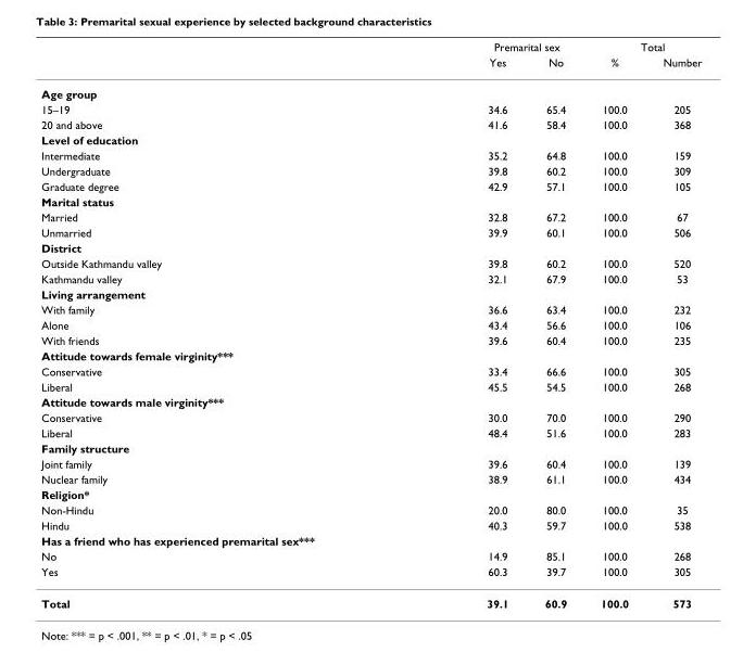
<table><thead><tr><td rowspan="2"></td><td colspan="2">Premarital sex</td><td colspan="2">Total</td></tr><tr><td>Yes</td><td>No</td><td>%</td><td>Number</td></tr></thead><tbody><tr><td colspan="5">Age group</td></tr><tr><td>15–19</td><td>34.6</td><td>65.4</td><td>100.0</td><td>205</td></tr><tr><td>20 and above</td><td>41.6</td><td>58.4</td><td>100.0</td><td>368</td></tr><tr><td colspan="5">Level of education</td></tr><tr><td>Intermediate</td><td>35.2</td><td>64.8</td><td>100.0</td><td>159</td></tr><tr><td>Undergraduate</td><td>39.8</td><td>60.2</td><td>100.0</td><td>309</td></tr><tr><td>Graduate degree</td><td>42.9</td><td>57.1</td><td>100.0</td><td>105</td></tr><tr><td colspan="5">Marital status</td></tr><tr><td>Married</td><td>32.8</td><td>67.2</td><td>100.0</td><td>67</td></tr><tr><td>Unmarried</td><td>39.9</td><td>60.1</td><td>100.0</td><td>506</td></tr><tr><td colspan="5">District</td></tr><tr><td>Outside Kathmandu valley</td><td>39.8</td><td>60.2</td><td>100.0</td><td>520</td></tr><tr><td>Kathmandu valley</td><td>32.1</td><td>67.9</td><td>100.0</td><td>53</td></tr><tr><td colspan="5">Living arrangement</td></tr><tr><td>With family</td><td>36.6</td><td>63.4</td><td>100.0</td><td>232</td></tr><tr><td>Alone</td><td>43.4</td><td>56.6</td><td>100.0</td><td>106</td></tr><tr><td>With friends</td><td>39.6</td><td>60.4</td><td>100.0</td><td>235</td></tr><tr><td colspan="5">Attitude towards female virginity***</td></tr><tr><td>Conservative</td><td>33.4</td><td>66.6</td><td>100.0</td><td>305</td></tr><tr><td>Liberal</td><td>45.5</td><td>54.5</td><td>100.0</td><td>268</td></tr><tr><td colspan="5">Attitude towards male virginity***</td></tr><tr><td>Conservative</td><td>30.0</td><td>70.0</td><td>100.0</td><td>290</td></tr><tr><td>Liberal</td><td>48.4</td><td>51.6</td><td>100.0</td><td>283</td></tr><tr><td colspan="5">Family structure</td></tr><tr><td>Joint family</td><td>39.6</td><td>60.4</td><td>100.0</td><td>139</td></tr><tr><td>Nuclear family</td><td>38.9</td><td>61.1</td><td>100.0</td><td>434</td></tr><tr><td colspan="5">Religion*</td></tr><tr><td>Non-Hindu</td><td>20.0</td><td>80.0</td><td>100.0</td><td>35</td></tr><tr><td>Hindu</td><td>40.3</td><td>59.7</td><td>100.0</td><td>538</td></tr><tr><td colspan="5">Has a friend who has experienced premarital sex***</td></tr><tr><td>No</td><td>14.9</td><td>85.1</td><td>100.0</td><td>268</td></tr><tr><td>Yes</td><td>60.3</td><td>39.7</td><td>100.0</td><td>305</td></tr><tr><td>Total</td><td>39.1</td><td>60.9</td><td>100.0</td><td>573</td></tr></tbody></table>